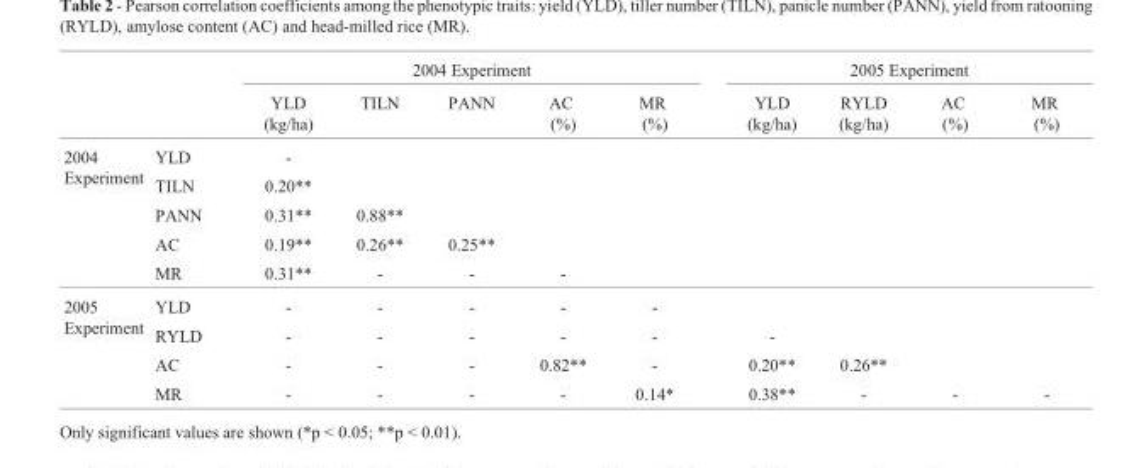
<table><thead><tr><td rowspan="2"></td><td rowspan="2"></td><td colspan="5">2004 Experiment</td><td colspan="4">2005 Experiment</td></tr><tr><td>YLD (kg/ha)</td><td>TILN</td><td>PANN</td><td>AC (%)</td><td>MR (%)</td><td>YLD (kg/ha)</td><td>RYLD (kg/ha)</td><td>AC (%)</td><td>MR (%)</td></tr></thead><tbody><tr><td rowspan="5">2004 Experiment</td><td>YLD</td><td>-</td><td></td><td></td><td></td><td></td><td></td><td></td><td></td><td></td></tr><tr><td>TILN</td><td>0.20**</td><td></td><td></td><td></td><td></td><td></td><td></td><td></td><td></td></tr><tr><td>PANN</td><td>0.31**</td><td>0.88**</td><td></td><td></td><td></td><td></td><td></td><td></td><td></td></tr><tr><td>AC</td><td>0.19**</td><td>0.26**</td><td>0.25**</td><td></td><td></td><td></td><td></td><td></td><td></td></tr><tr><td>MR</td><td>0.31**</td><td>-</td><td>-</td><td>-</td><td></td><td></td><td></td><td></td><td></td></tr><tr><td rowspan="4">2005 Experiment</td><td>YLD</td><td>-</td><td>-</td><td>-</td><td>-</td><td>-</td><td></td><td></td><td></td><td></td></tr><tr><td>RYLD</td><td>-</td><td>-</td><td>-</td><td>-</td><td>-</td><td>-</td><td></td><td></td><td></td></tr><tr><td>AC</td><td>-</td><td>-</td><td>-</td><td>0.82**</td><td>-</td><td>0.20**</td><td>0.26**</td><td></td><td></td></tr><tr><td>MR</td><td>-</td><td>-</td><td>-</td><td>-</td><td>0.14*</td><td>0.38**</td><td>-</td><td>-</td><td>-</td></tr></tbody></table>